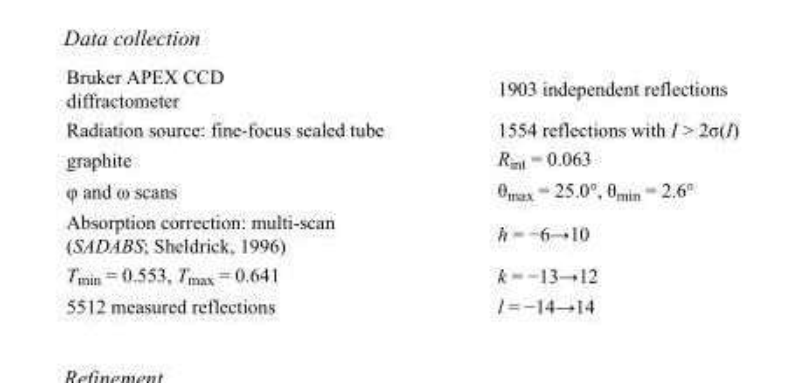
<table><tbody><tr><td>Bruker APEX CCD diffractometer</td><td>1903 independent reflections</td></tr><tr><td>Radiation source: fine-focus sealed tube</td><td>1554 reflections with I &gt; 2σ(I)</td></tr><tr><td>graphite</td><td>R<sub>int</sub> = 0.063</td></tr><tr><td>φ and ω scans</td><td>θ<sub>max</sub> = 25.0°, θ<sub>min</sub> = 2.6°</td></tr><tr><td>Absorption correction: multi-scan (SADABS; Sheldrick, 1996)</td><td>h = −6→10</td></tr><tr><td>T<sub>min</sub> = 0.553, T<sub>max</sub> = 0.641</td><td>k = −13→12</td></tr><tr><td>5512 measured reflections</td><td>l = −14→14</td></tr></tbody></table>